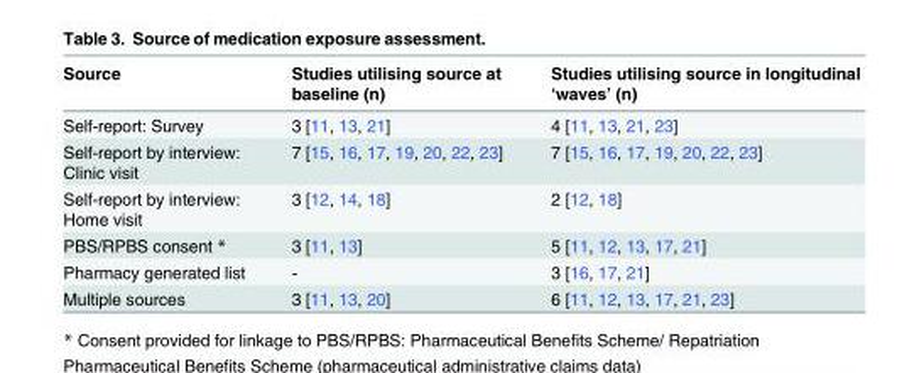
<table><thead><tr><td>Source</td><td>Studies utilising source at baseline (n)</td><td>Studies utilising source in longitudinal ‘waves’ (n)</td></tr></thead><tbody><tr><td>Self-report: Survey</td><td>3 [11, 13, 21]</td><td>4 [11, 13, 21, 23]</td></tr><tr><td>Self-report by interview: Clinic visit</td><td>7 [15, 16, 17, 19, 20, 22, 23]</td><td>7 [15, 16, 17, 19, 20, 22, 23]</td></tr><tr><td>Self-report by interview: Home visit</td><td>3 [12, 14, 18]</td><td>2 [12, 18]</td></tr><tr><td>PBS/RPBS consent *</td><td>3 [11, 13]</td><td>5 [11, 12, 13, 17, 21]</td></tr><tr><td>Pharmacy generated list</td><td>-</td><td>3 [16, 17, 21]</td></tr><tr><td>Multiple sources</td><td>3 [11, 13, 20]</td><td>6 [11, 12, 13, 17, 21, 23]</td></tr></tbody></table>